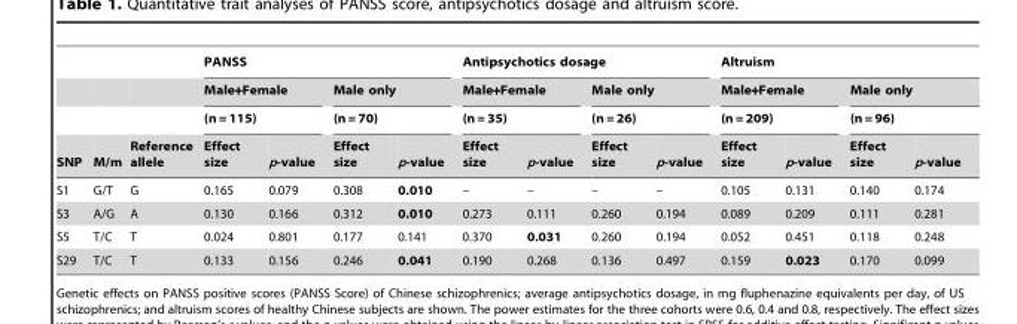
<table><thead><tr><td rowspan="4">SNP</td><td rowspan="4">M/m</td><td rowspan="4">Reference allele</td><td colspan="4">PANSS</td><td colspan="4">Antipsychotics dosage</td><td colspan="4">Altruism</td></tr><tr><td rowspan="2" colspan="2">Male+Female (n = 115)</td><td rowspan="2" colspan="2">Male only (n = 70)</td><td rowspan="2" colspan="2">Male+Female (n = 35)</td><td rowspan="2" colspan="2">Male only (n = 26)</td><td rowspan="2" colspan="2">Male+Female (n = 209)</td><td rowspan="2" colspan="2">Male only (n = 96)</td></tr><tr></tr><tr><td>Effect size</td><td>p-value</td><td>Effect size</td><td>p-value</td><td>Effect size</td><td>p-value</td><td>Effect size</td><td>p-value</td><td>Effect size</td><td>p-value</td><td>Effect size</td><td>p-value</td></tr></thead><tbody><tr><td>S1</td><td>G/T</td><td>G</td><td>0.165</td><td>0.079</td><td>0.308</td><td>0.010</td><td>–</td><td>–</td><td>–</td><td>–</td><td>0.105</td><td>0.131</td><td>0.140</td><td>0.174</td></tr><tr><td>S3</td><td>A/G</td><td>A</td><td>0.130</td><td>0.166</td><td>0.312</td><td>0.010</td><td>0.273</td><td>0.111</td><td>0.260</td><td>0.194</td><td>0.089</td><td>0.209</td><td>0.111</td><td>0.281</td></tr><tr><td>S5</td><td>T/C</td><td>T</td><td>0.024</td><td>0.801</td><td>0.177</td><td>0.141</td><td>0.370</td><td>0.031</td><td>0.260</td><td>0.194</td><td>0.052</td><td>0.451</td><td>0.118</td><td>0.248</td></tr><tr><td>S29</td><td>T/C</td><td>T</td><td>0.133</td><td>0.156</td><td>0.246</td><td>0.041</td><td>0.190</td><td>0.268</td><td>0.136</td><td>0.497</td><td>0.159</td><td>0.023</td><td>0.170</td><td>0.099</td></tr></tbody></table>